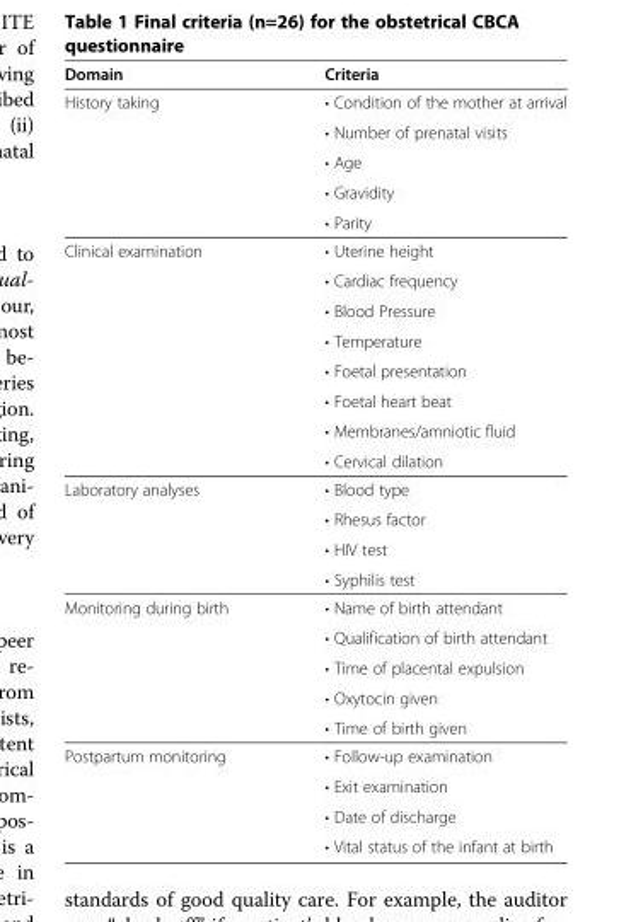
<table><thead><tr><td>Domain</td><td>Criteria</td></tr></thead><tbody><tr><td rowspan="5">History taking</td><td>• Condition of the mother at arrival</td></tr><tr><td>• Number of prenatal visits</td></tr><tr><td>• Age</td></tr><tr><td>• Gravidity</td></tr><tr><td>• Parity</td></tr><tr><td rowspan="8">Clinical examination</td><td>• Uterine height</td></tr><tr><td>• Cardiac frequency</td></tr><tr><td>• Blood Pressure</td></tr><tr><td>• Temperature</td></tr><tr><td>• Foetal presentation</td></tr><tr><td>• Foetal heart beat</td></tr><tr><td>• Membranes/amniotic fluid</td></tr><tr><td>• Cervical dilation</td></tr><tr><td rowspan="4">Laboratory analyses</td><td>• Blood type</td></tr><tr><td>• Rhesus factor</td></tr><tr><td>• HIV test</td></tr><tr><td>• Syphilis test</td></tr><tr><td rowspan="5">Monitoring during birth</td><td>• Name of birth attendant</td></tr><tr><td>• Qualification of birth attendant</td></tr><tr><td>• Time of placental expulsion</td></tr><tr><td>• Oxytocin given</td></tr><tr><td>• Time of birth given</td></tr><tr><td rowspan="4">Postpartum monitoring</td><td>• Follow-up examination</td></tr><tr><td>• Exit examination</td></tr><tr><td>• Date of discharge</td></tr><tr><td>• Vital status of the infant at birth</td></tr></tbody></table>